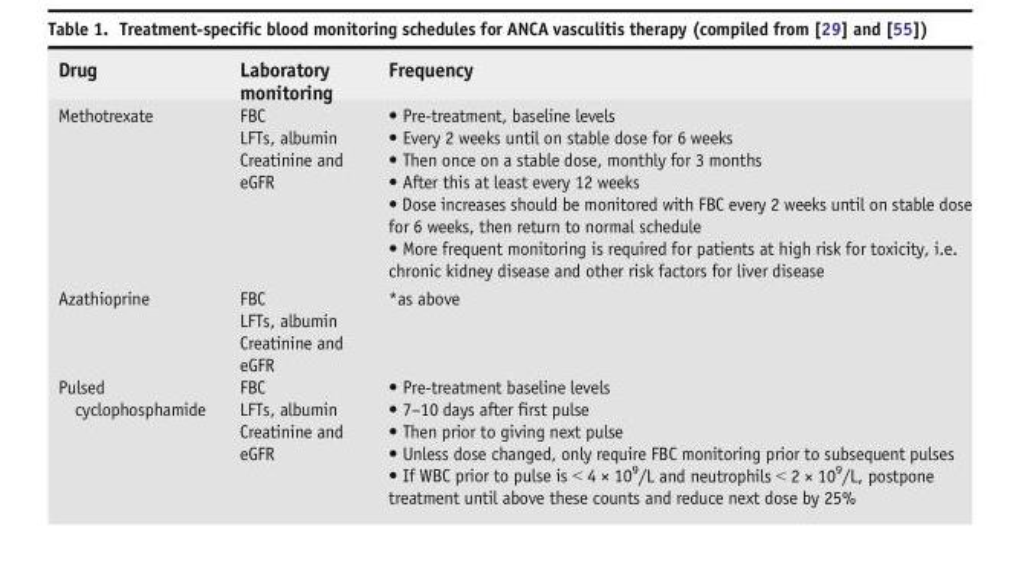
<table><thead><tr><td>Drug</td><td>Laboratory monitoring</td><td>Frequency</td></tr></thead><tbody><tr><td>Methotrexate</td><td>FBC LFTs, albumin Creatinine and eGFR</td><td>• Pre-treatment, baseline levels • Every 2 weeks until on stable dose for 6 weeks • Then once on a stable dose, monthly for 3 months • After this at least every 12 weeks • Dose increases should be monitored with FBC every 2 weeks until on stable dose for 6 weeks, then return to normal schedule • More frequent monitoring is required for patients at high risk for toxicity, i.e. chronic kidney disease and other risk factors for liver disease</td></tr><tr><td>Azathioprine</td><td>FBC LFTs, albumin Creatinine and eGFR</td><td>*as above</td></tr><tr><td>Pulsed cyclophosphamide</td><td>FBC LFTs, albumin Creatinine and eGFR</td><td>• Pre-treatment baseline levels • 7–10 days after first pulse • Then prior to giving next pulse • Unless dose changed, only require FBC monitoring prior to subsequent pulses • If WBC prior to pulse is &lt; 4 × 10<sup>9</sup>/L and neutrophils &lt; 2 × 10<sup>9</sup>/L, postpone treatment until above these counts and reduce next dose by 25%</td></tr></tbody></table>